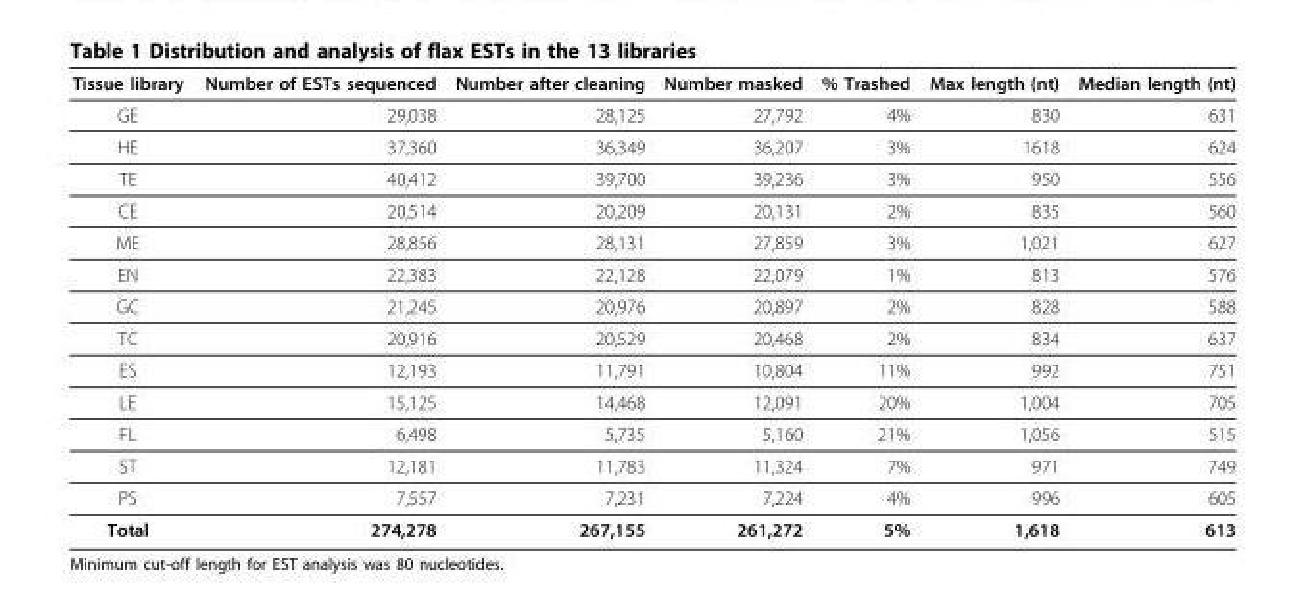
<table><thead><tr><td>Tissue library</td><td>Number of ESTs sequenced</td><td>Number after cleaning</td><td>Number masked</td><td>% Trashed</td><td>Max length (nt)</td><td>Median length (nt)</td></tr></thead><tbody><tr><td>GE</td><td>29,038</td><td>28,125</td><td>27,792</td><td>4%</td><td>830</td><td>631</td></tr><tr><td>HE</td><td>37,360</td><td>36,349</td><td>36,207</td><td>3%</td><td>1618</td><td>624</td></tr><tr><td>TE</td><td>40,412</td><td>39,700</td><td>39,236</td><td>3%</td><td>950</td><td>556</td></tr><tr><td>CE</td><td>20,514</td><td>20,209</td><td>20,131</td><td>2%</td><td>835</td><td>560</td></tr><tr><td>ME</td><td>28,856</td><td>28,131</td><td>27,859</td><td>3%</td><td>1,021</td><td>627</td></tr><tr><td>EN</td><td>22,383</td><td>22,128</td><td>22,079</td><td>1%</td><td>813</td><td>576</td></tr><tr><td>GC</td><td>21,245</td><td>20,976</td><td>20,897</td><td>2%</td><td>828</td><td>588</td></tr><tr><td>TC</td><td>20,916</td><td>20,529</td><td>20,468</td><td>2%</td><td>834</td><td>637</td></tr><tr><td>ES</td><td>12,193</td><td>11,791</td><td>10,804</td><td>11%</td><td>992</td><td>751</td></tr><tr><td>LE</td><td>15,125</td><td>14,468</td><td>12,091</td><td>20%</td><td>1,004</td><td>705</td></tr><tr><td>FL</td><td>6,498</td><td>5,735</td><td>5,160</td><td>21%</td><td>1,056</td><td>515</td></tr><tr><td>ST</td><td>12,181</td><td>11,783</td><td>11,324</td><td>7%</td><td>971</td><td>749</td></tr><tr><td>PS</td><td>7,557</td><td>7,231</td><td>7,224</td><td>4%</td><td>996</td><td>605</td></tr><tr><td>Total</td><td>274,278</td><td>267,155</td><td>261,272</td><td>5%</td><td>1,618</td><td>613</td></tr></tbody></table>